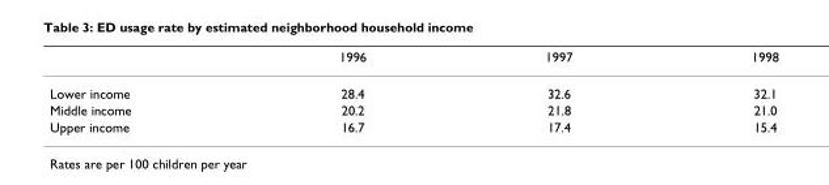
<table><thead><tr><td></td><td>1996</td><td>1997</td><td>1998</td></tr></thead><tbody><tr><td>Lower income</td><td>28.4</td><td>32.6</td><td>32.1</td></tr><tr><td>Middle income</td><td>20.2</td><td>21.8</td><td>21.0</td></tr><tr><td>Upper income</td><td>16.7</td><td>17.4</td><td>15.4</td></tr></tbody></table>